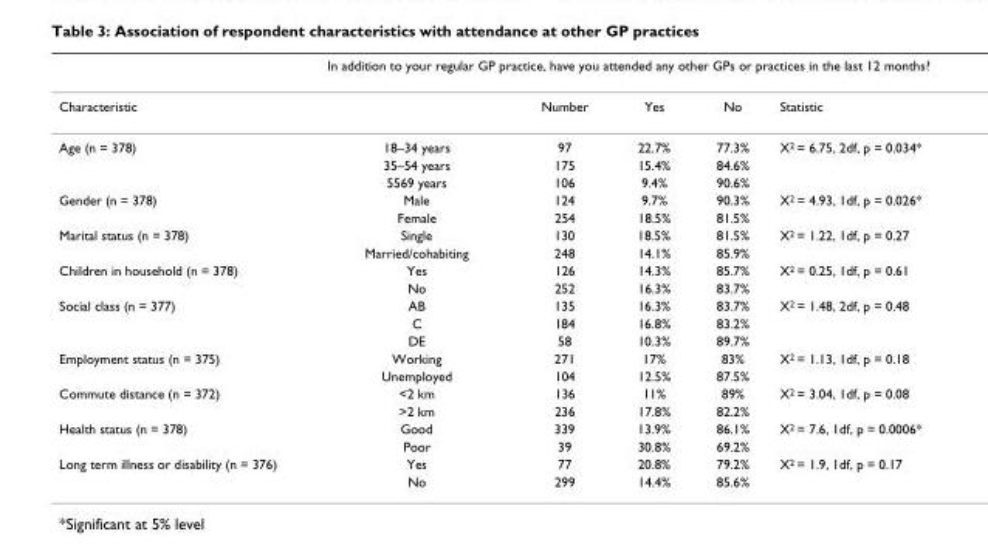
<table><thead><tr><td rowspan="2">Characteristic</td><td colspan="5">In addition to your regular GP practice, have you attended any other GPs or practices in the last 12 months?</td></tr><tr><td></td><td>Number</td><td>Yes</td><td>No</td><td>Statistic</td></tr></thead><tbody><tr><td rowspan="3">Age (n = 378)</td><td>18–34 years</td><td>97</td><td>22.7%</td><td>77.3%</td><td>X<sup>2</sup> = 6.75, 2df, p = 0.034*</td></tr><tr><td>35–54 years</td><td>175</td><td>15.4%</td><td>84.6%</td><td></td></tr><tr><td>5569 years</td><td>106</td><td>9.4%</td><td>90.6%</td><td></td></tr><tr><td rowspan="2">Gender (n = 378)</td><td>Male</td><td>124</td><td>9.7%</td><td>90.3%</td><td>X<sup>2</sup> = 4.93, 1df, p = 0.026*</td></tr><tr><td>Female</td><td>254</td><td>18.5%</td><td>81.5%</td><td></td></tr><tr><td rowspan="2">Marital status (n = 378)</td><td>Single</td><td>130</td><td>18.5%</td><td>81.5%</td><td>X<sup>2</sup> = 1.22, 1df, p = 0.27</td></tr><tr><td>Married/cohabiting</td><td>248</td><td>14.1%</td><td>85.9%</td><td></td></tr><tr><td rowspan="2">Children in household (n = 378)</td><td>Yes</td><td>126</td><td>14.3%</td><td>85.7%</td><td>X<sup>2</sup> = 0.25, 1df, p = 0.61</td></tr><tr><td>No</td><td>252</td><td>16.3%</td><td>83.7%</td><td></td></tr><tr><td rowspan="3">Social class (n = 377)</td><td>AB</td><td>135</td><td>16.3%</td><td>83.7%</td><td>X<sup>2</sup> = 1.48, 2df, p = 0.48</td></tr><tr><td>C</td><td>184</td><td>16.8%</td><td>83.2%</td><td></td></tr><tr><td>DE</td><td>58</td><td>10.3%</td><td>89.7%</td><td></td></tr><tr><td rowspan="2">Employment status (n = 375)</td><td>Working</td><td>271</td><td>17%</td><td>83%</td><td>X<sup>2</sup> = 1.13, 1df, p = 0.18</td></tr><tr><td>Unemployed</td><td>104</td><td>12.5%</td><td>87.5%</td><td></td></tr><tr><td rowspan="2">Commute distance (n = 372)</td><td>&lt;2 km</td><td>136</td><td>11%</td><td>89%</td><td>X<sup>2</sup> = 3.04, 1df, p = 0.08</td></tr><tr><td>&gt;2 km</td><td>236</td><td>17.8%</td><td>82.2%</td><td></td></tr><tr><td rowspan="2">Health status (n = 378)</td><td>Good</td><td>339</td><td>13.9%</td><td>86.1%</td><td>X<sup>2</sup> = 7.6, 1df, p = 0.0006*</td></tr><tr><td>Poor</td><td>39</td><td>30.8%</td><td>69.2%</td><td></td></tr><tr><td rowspan="2">Long term illness or disability (n = 376)</td><td>Yes</td><td>77</td><td>20.8%</td><td>79.2%</td><td>X<sup>2</sup> = 1.9, 1df, p = 0.17</td></tr><tr><td>No</td><td>299</td><td>14.4%</td><td>85.6%</td><td></td></tr></tbody></table>